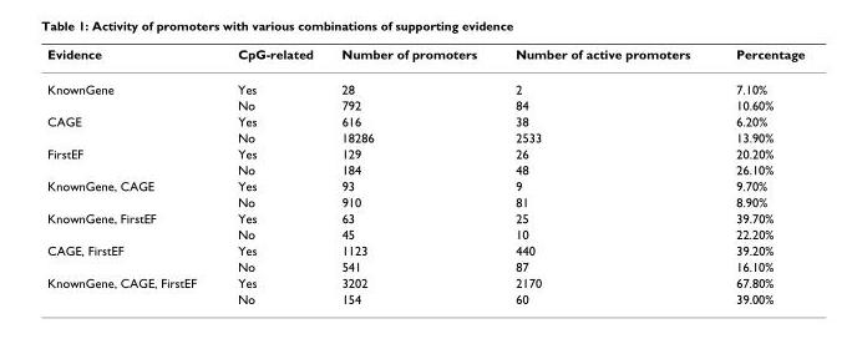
<table><thead><tr><td>Evidence</td><td>CpG-related</td><td>Number of promoters</td><td>Number of active promoters</td><td>Percentage</td></tr></thead><tbody><tr><td rowspan="2">KnownGene</td><td>Yes</td><td>28</td><td>2</td><td>7.10%</td></tr><tr><td>No</td><td>792</td><td>84</td><td>10.60%</td></tr><tr><td rowspan="2">CAGE</td><td>Yes</td><td>616</td><td>38</td><td>6.20%</td></tr><tr><td>No</td><td>18286</td><td>2533</td><td>13.90%</td></tr><tr><td rowspan="2">FirstEF</td><td>Yes</td><td>129</td><td>26</td><td>20.20%</td></tr><tr><td>No</td><td>184</td><td>48</td><td>26.10%</td></tr><tr><td rowspan="2">KnownGene, CAGE</td><td>Yes</td><td>93</td><td>9</td><td>9.70%</td></tr><tr><td>No</td><td>910</td><td>81</td><td>8.90%</td></tr><tr><td rowspan="2">KnownGene, FirstEF</td><td>Yes</td><td>63</td><td>25</td><td>39.70%</td></tr><tr><td>No</td><td>45</td><td>10</td><td>22.20%</td></tr><tr><td rowspan="2">CAGE, FirstEF</td><td>Yes</td><td>1123</td><td>440</td><td>39.20%</td></tr><tr><td>No</td><td>541</td><td>87</td><td>16.10%</td></tr><tr><td rowspan="2">KnownGene, CAGE, FirstEF</td><td>Yes</td><td>3202</td><td>2170</td><td>67.80%</td></tr><tr><td>No</td><td>154</td><td>60</td><td>39.00%</td></tr></tbody></table>